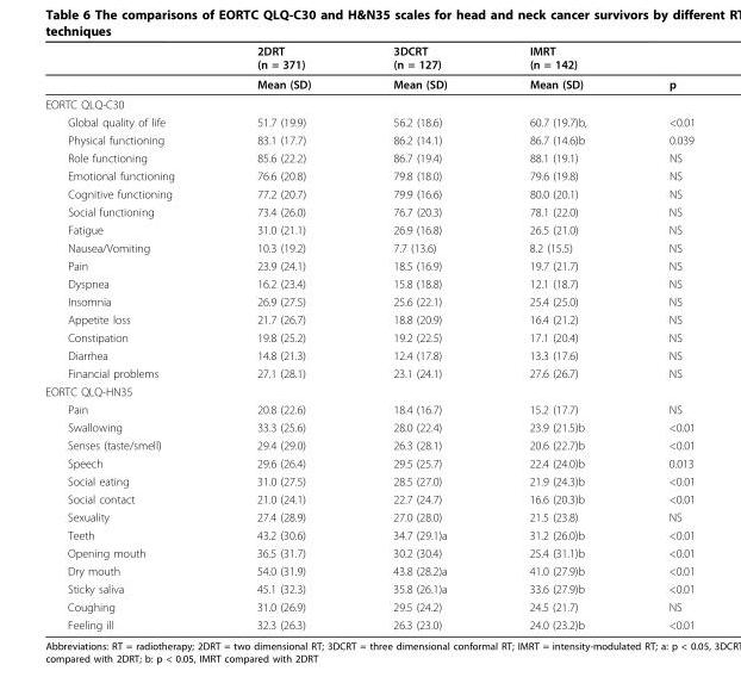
<table><thead><tr><td></td><td>2DRT (n = 371)</td><td>3DCRT (n = 127)</td><td>IMRT (n = 142)</td><td></td></tr></thead><tbody><tr><td></td><td>Mean (SD)</td><td>Mean (SD)</td><td>Mean (SD)</td><td>p</td></tr><tr><td colspan="5">EORTC QLQ-C30</td></tr><tr><td>Global quality of life</td><td>51.7 (19.9)</td><td>56.2 (18.6)</td><td>60.7 (19.7)b,</td><td>&lt;0.01</td></tr><tr><td>Physical functioning</td><td>83.1 (17.7)</td><td>86.2 (14.1)</td><td>86.7 (14.6)b</td><td>0.039</td></tr><tr><td>Role functioning</td><td>85.6 (22.2)</td><td>86.7 (19.4)</td><td>88.1 (19.1)</td><td>NS</td></tr><tr><td>Emotional functioning</td><td>76.6 (20.8)</td><td>79.8 (18.0)</td><td>79.6 (19.8)</td><td>NS</td></tr><tr><td>Cognitive functioning</td><td>77.2 (20.7)</td><td>79.9 (16.6)</td><td>80.0 (20.1)</td><td>NS</td></tr><tr><td>Social functioning</td><td>73.4 (26.0)</td><td>76.7 (20.3)</td><td>78.1 (22.0)</td><td>NS</td></tr><tr><td>Fatigue</td><td>31.0 (21.1)</td><td>26.9 (16.8)</td><td>26.5 (21.0)</td><td>NS</td></tr><tr><td>Nausea/Vomiting</td><td>10.3 (19.2)</td><td>7.7 (13.6)</td><td>8.2 (15.5)</td><td>NS</td></tr><tr><td>Pain</td><td>23.9 (24.1)</td><td>18.5 (16.9)</td><td>19.7 (21.7)</td><td>NS</td></tr><tr><td>Dyspnea</td><td>16.2 (23.4)</td><td>15.8 (18.8)</td><td>12.1 (18.7)</td><td>NS</td></tr><tr><td>Insomnia</td><td>26.9 (27.5)</td><td>25.6 (22.1)</td><td>25.4 (25.0)</td><td>NS</td></tr><tr><td>Appetite loss</td><td>21.7 (26.7)</td><td>18.8 (20.9)</td><td>16.4 (21.2)</td><td>NS</td></tr><tr><td>Constipation</td><td>19.8 (25.2)</td><td>19.2 (22.5)</td><td>17.1 (20.4)</td><td>NS</td></tr><tr><td>Diarrhea</td><td>14.8 (21.3)</td><td>12.4 (17.8)</td><td>13.3 (17.6)</td><td>NS</td></tr><tr><td>Financial problems</td><td>27.1 (28.1)</td><td>23.1 (24.1)</td><td>27.6 (26.7)</td><td>NS</td></tr><tr><td colspan="5">EORTC QLQ-HN35</td></tr><tr><td>Pain</td><td>20.8 (22.6)</td><td>18.4 (16.7)</td><td>15.2 (17.7)</td><td>NS</td></tr><tr><td>Swallowing</td><td>33.3 (25.6)</td><td>28.0 (22.4)</td><td>23.9 (21.5)b</td><td>&lt;0.01</td></tr><tr><td>Senses (taste/smell)</td><td>29.4 (29.0)</td><td>26.3 (28.1)</td><td>20.6 (22.7)b</td><td>&lt;0.01</td></tr><tr><td>Speech</td><td>29.6 (26.4)</td><td>29.5 (25.7)</td><td>22.4 (24.0)b</td><td>0.013</td></tr><tr><td>Social eating</td><td>31.0 (27.5)</td><td>28.5 (27.0)</td><td>21.9 (24.3)b</td><td>&lt;0.01</td></tr><tr><td>Social contact</td><td>21.0 (24.1)</td><td>22.7 (24.7)</td><td>16.6 (20.3)b</td><td>&lt;0.01</td></tr><tr><td>Sexuality</td><td>27.4 (28.9)</td><td>27.0 (28.0)</td><td>21.5 (23.8)</td><td>NS</td></tr><tr><td>Teeth</td><td>43.2 (30.6)</td><td>34.7 (29.1)a</td><td>31.2 (26.0)b</td><td>&lt;0.01</td></tr><tr><td>Opening mouth</td><td>36.5 (31.7)</td><td>30.2 (30.4)</td><td>25.4 (31.1)b</td><td>&lt;0.01</td></tr><tr><td>Dry mouth</td><td>54.0 (31.9)</td><td>43.8 (28.2)a</td><td>41.0 (27.9)b</td><td>&lt;0.01</td></tr><tr><td>Sticky saliva</td><td>45.1 (32.3)</td><td>35.8 (26.1)a</td><td>33.6 (27.9)b</td><td>&lt;0.01</td></tr><tr><td>Coughing</td><td>31.0 (26.9)</td><td>29.5 (24.2)</td><td>24.5 (21.7)</td><td>NS</td></tr><tr><td>Feeling ill</td><td>32.3 (26.3)</td><td>26.3 (23.0)</td><td>24.0 (23.2)b</td><td>&lt;0.01</td></tr></tbody></table>